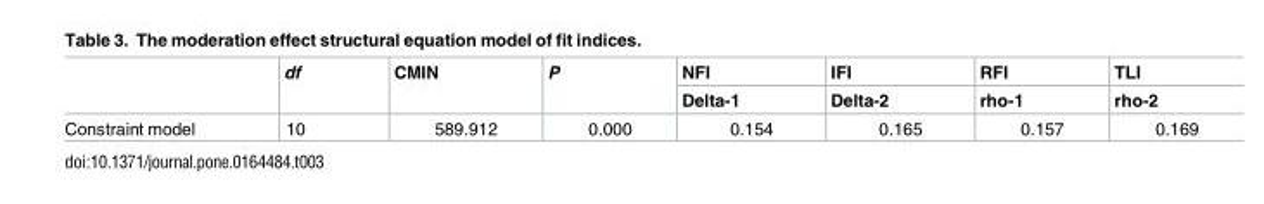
<table><thead><tr><td rowspan="2"></td><td rowspan="2">df</td><td rowspan="2">CMIN</td><td rowspan="2">P</td><td rowspan="2">NFI Delta-1</td><td rowspan="2">IFI Delta-2</td><td rowspan="2">RFI rho-1</td><td rowspan="2">TLI rho-2</td></tr><tr></tr></thead><tbody><tr><td>Constraint model</td><td>10</td><td>589.912</td><td>0.000</td><td>0.154</td><td>0.165</td><td>0.157</td><td>0.169</td></tr></tbody></table>